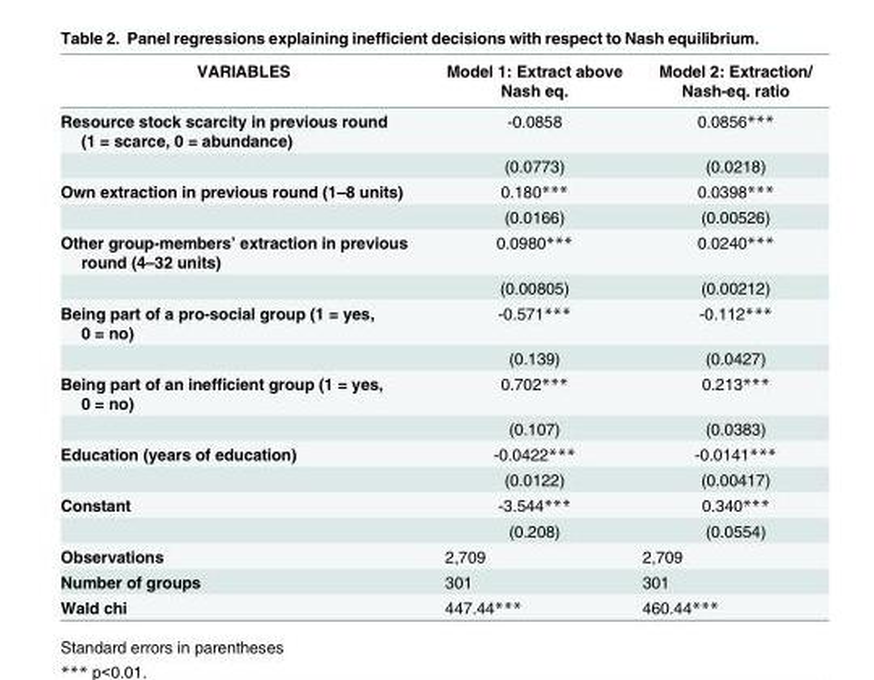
<table><thead><tr><td>VARIABLES</td><td>Model 1: Extract above Nash eq.</td><td>Model 2: Extraction/ Nash-eq. ratio</td></tr></thead><tbody><tr><td rowspan="2">Resource stock scarcity in previous round (1 = scarce, 0 = abundance)</td><td>-0.0858</td><td>0.0856***</td></tr><tr><td>(0.0773)</td><td>(0.0218)</td></tr><tr><td rowspan="2">Own extraction in previous round (1–8 units)</td><td>0.180***</td><td>0.0398***</td></tr><tr><td>(0.0166)</td><td>(0.00526)</td></tr><tr><td rowspan="2">Other group-members’ extraction in previous round (4–32 units)</td><td>0.0980***</td><td>0.0240***</td></tr><tr><td>(0.00805)</td><td>(0.00212)</td></tr><tr><td rowspan="2">Being part of a pro-social group (1 = yes, 0 = no)</td><td>-0.571***</td><td>-0.112***</td></tr><tr><td>(0.139)</td><td>(0.0427)</td></tr><tr><td rowspan="2">Being part of an inefficient group (1 = yes, 0 = no)</td><td>0.702***</td><td>0.213***</td></tr><tr><td>(0.107)</td><td>(0.0383)</td></tr><tr><td rowspan="2">Education (years of education)</td><td>-0.0422***</td><td>-0.0141***</td></tr><tr><td>(0.0122)</td><td>(0.00417)</td></tr><tr><td rowspan="2">Constant</td><td>-3.544***</td><td>0.340***</td></tr><tr><td>(0.208)</td><td>(0.0554)</td></tr><tr><td>Observations</td><td>2,709</td><td>2,709</td></tr><tr><td>Number of groups</td><td>301</td><td>301</td></tr><tr><td>Wald chi</td><td>447.44***</td><td>460.44***</td></tr></tbody></table>